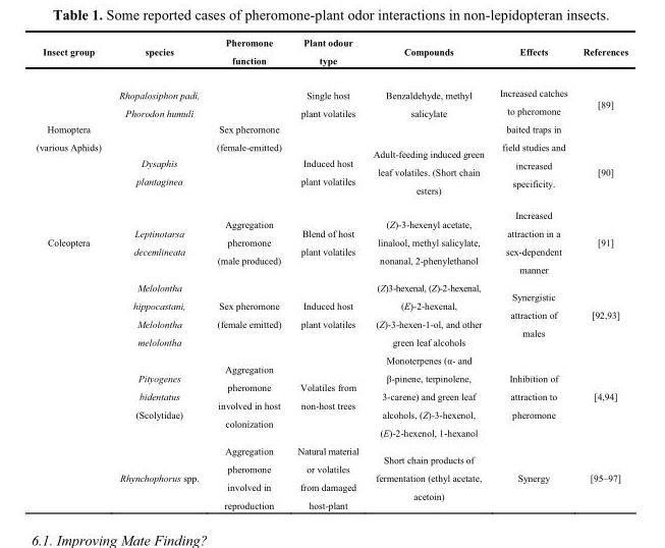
<table><thead><tr><td>Insect group</td><td>species</td><td>Pheromone function</td><td>Plant odour type</td><td>Compounds</td><td>Effects</td><td>References</td></tr></thead><tbody><tr><td rowspan="2">Homoptera (various Aphids)</td><td>Rhopalosiphon padi, Phorodon humuli</td><td rowspan="2">Sex pheromone (female-emitted)</td><td>Single host plant volatiles</td><td>Benzaldehyde, methyl salicylate</td><td rowspan="2">Increased catches to pheromone baited traps in field studies and increased specificity.</td><td>[89]</td></tr><tr><td>Dysaphis plantaginea</td><td>Induced host plant volatiles</td><td>Adult-feeding induced green leaf volatiles. (Short chain esters)</td><td>[90]</td></tr><tr><td rowspan="4">Coleoptera</td><td>Leptinotarsa decemlineata</td><td>Aggregation pheromone (male produced)</td><td>Blend of host plant volatiles</td><td>(Z)-3-hexenyl acetate, linalool, methyl salicylate, nonanal, 2-phenylethanol</td><td>Increased attraction in a sex-dependent manner</td><td>[91]</td></tr><tr><td>Melolontha hippocastani, Melolontha melolontha</td><td>Sex pheromone (female emitted)</td><td>Induced host plant volatiles</td><td>(Z)3-hexenal, (Z)-2-hexenal, (E)-2-hexenal, (Z)-3-hexen-1-ol, and other green leaf alcohols</td><td>Synergistic attraction of males</td><td>[92,93]</td></tr><tr><td>Pityogenes bidentatus (Scolytidae)</td><td>Aggregation pheromone involved in host colonization</td><td>Volatiles from non-host trees</td><td>Monoterpenes (α- and β-pinene, terpinolene, 3-carene) and green leaf alcohols, (Z)-3-hexenol, (E)-2-hexenol, 1-hexanol</td><td>Inhibition of attraction to pheromone</td><td>[4,94]</td></tr><tr><td>Rhynchophorus spp.</td><td>Aggregation pheromone involved in reproduction</td><td>Natural material or volatiles from damaged host-plant</td><td>Short chain products of fermentation (ethyl acetate, acetoin)</td><td>Synergy</td><td>[95–97]</td></tr></tbody></table>